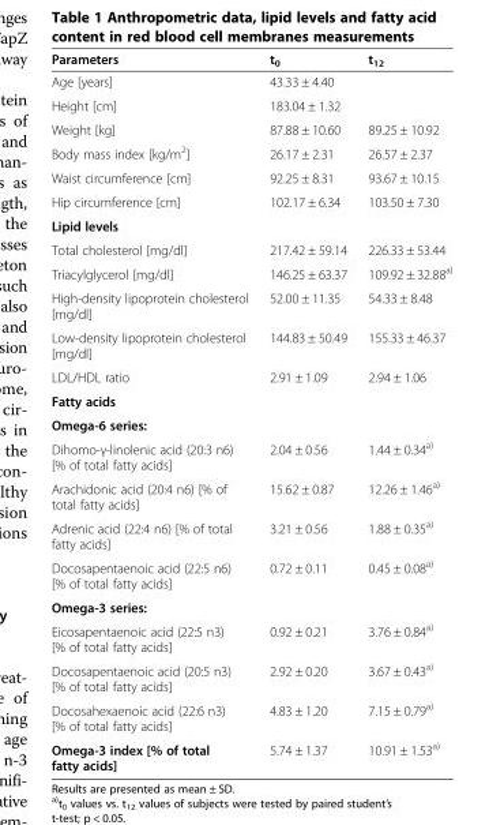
<table><thead><tr><td>Parameters</td><td>t<sub>0</sub></td><td>t<sub>12</sub></td></tr></thead><tbody><tr><td>Age [years]</td><td>43.33 ± 4.40</td><td></td></tr><tr><td>Height [cm]</td><td>183.04 ± 1.32</td><td></td></tr><tr><td>Weight [kg]</td><td>87.88 ± 10.60</td><td>89.25 ± 10.92</td></tr><tr><td>Body mass index [kg/m<sup>2</sup>]</td><td>26.17 ± 2.31</td><td>26.57 ± 2.37</td></tr><tr><td>Waist circumference [cm]</td><td>92.25 ± 8.31</td><td>93.67 ± 10.15</td></tr><tr><td>Hip circumference [cm]</td><td>102.17 ± 6.34</td><td>103.50 ± 7.30</td></tr><tr><td colspan="3">Lipid levels</td></tr><tr><td>Total cholesterol [mg/dl]</td><td>217.42 ± 59.14</td><td>226.33 ± 53.44</td></tr><tr><td>Triacylglycerol [mg/dl]</td><td>146.25 ± 63.37</td><td>109.92 ± 32.88<sup>a)</sup></td></tr><tr><td>High-density lipoprotein cholesterol [mg/dl]</td><td>52.00 ± 11.35</td><td>54.33 ± 8.48</td></tr><tr><td>Low-density lipoprotein cholesterol [mg/dl]</td><td>144.83 ± 50.49</td><td>155.33 ± 46.37</td></tr><tr><td>LDL/HDL ratio</td><td>2.91 ± 1.09</td><td>2.94 ± 1.06</td></tr><tr><td colspan="3">Fatty acids</td></tr><tr><td colspan="3">Omega-6 series:</td></tr><tr><td>Dihomo-γ-linolenic acid (20:3 n6) [% of total fatty acids]</td><td>2.04 ± 0.56</td><td>1.44 ± 0.34<sup>a)</sup></td></tr><tr><td>Arachidonic acid (20:4 n6) [% of total fatty acids]</td><td>15.62 ± 0.87</td><td>12.26 ± 1.46<sup>a)</sup></td></tr><tr><td>Adrenic acid (22:4 n6) [% of total fatty acids]</td><td>3.21 ± 0.56</td><td>1.88 ± 0.35<sup>a)</sup></td></tr><tr><td>Docosapentaenoic acid (22:5 n6) [% of total fatty acids]</td><td>0.72 ± 0.11</td><td>0.45 ± 0.08<sup>a)</sup></td></tr><tr><td colspan="3">Omega-3 series:</td></tr><tr><td>Eicosapentaenoic acid (22:5 n3) [% of total fatty acids]</td><td>0.92 ± 0.21</td><td>3.76 ± 0.84<sup>a)</sup></td></tr><tr><td>Docosapentaenoic acid (20:5 n3) [% of total fatty acids]</td><td>2.92 ± 0.20</td><td>3.67 ± 0.43<sup>a)</sup></td></tr><tr><td>Docosahexaenoic acid (22:6 n3) [% of total fatty acids]</td><td>4.83 ± 1.20</td><td>7.15 ± 0.79<sup>a)</sup></td></tr><tr><td>Omega-3 index [% of total fatty acids]</td><td>5.74 ± 1.37</td><td>10.91 ± 1.53<sup>a)</sup></td></tr></tbody></table>